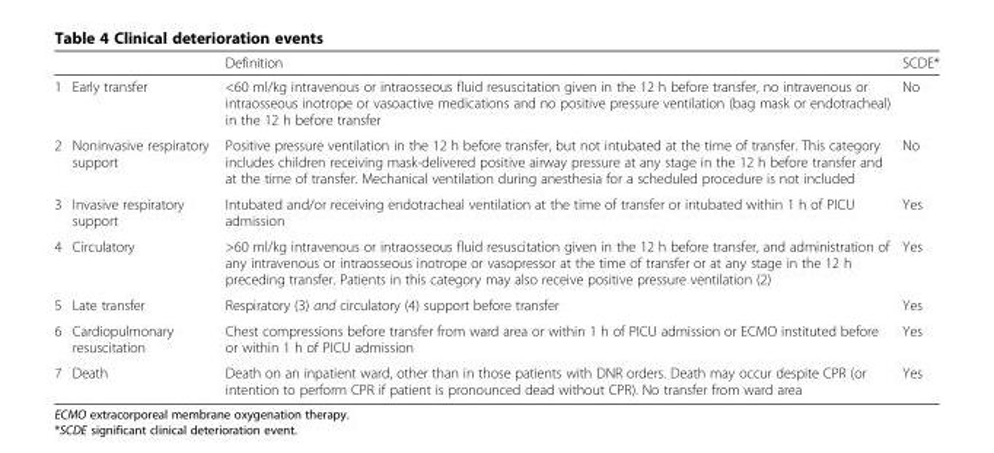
<table><thead><tr><td></td><td></td><td>Definition</td><td>SCDE*</td></tr></thead><tbody><tr><td>1</td><td>Early transfer</td><td>&lt;60 ml/kg intravenous or intraosseous fluid resuscitation given in the 12 h before transfer, no intravenous or intraosseous inotrope or vasoactive medications and no positive pressure ventilation (bag mask or endotracheal) in the 12 h before transfer</td><td>No</td></tr><tr><td>2</td><td>Noninvasive respiratory support</td><td>Positive pressure ventilation in the 12 h before transfer, but not intubated at the time of transfer. This category includes children receiving mask-delivered positive airway pressure at any stage in the 12 h before transfer and at the time of transfer. Mechanical ventilation during anesthesia for a scheduled procedure is not included</td><td>No</td></tr><tr><td>3</td><td>Invasive respiratory support</td><td>Intubated and/or receiving endotracheal ventilation at the time of transfer or intubated within 1 h of PICU admission</td><td>Yes</td></tr><tr><td>4</td><td>Circulatory</td><td>&gt;60 ml/kg intravenous or intraosseous fluid resuscitation given in the 12 h before transfer, and administration of any intravenous or intraosseous inotrope or vasopressor at the time of transfer or at any stage in the 12 h preceding transfer. Patients in this category may also receive positive pressure ventilation (2)</td><td>Yes</td></tr><tr><td>5</td><td>Late transfer</td><td>Respiratory (3) and circulatory (4) support before transfer</td><td>Yes</td></tr><tr><td>6</td><td>Cardiopulmonary resuscitation</td><td>Chest compressions before transfer from ward area or within 1 h of PICU admission or ECMO instituted before or within 1 h of PICU admission</td><td>Yes</td></tr><tr><td>7</td><td>Death</td><td>Death on an inpatient ward, other than in those patients with DNR orders. Death may occur despite CPR (or intention to perform CPR if patient is pronounced dead without CPR). No transfer from ward area</td><td>Yes</td></tr></tbody></table>